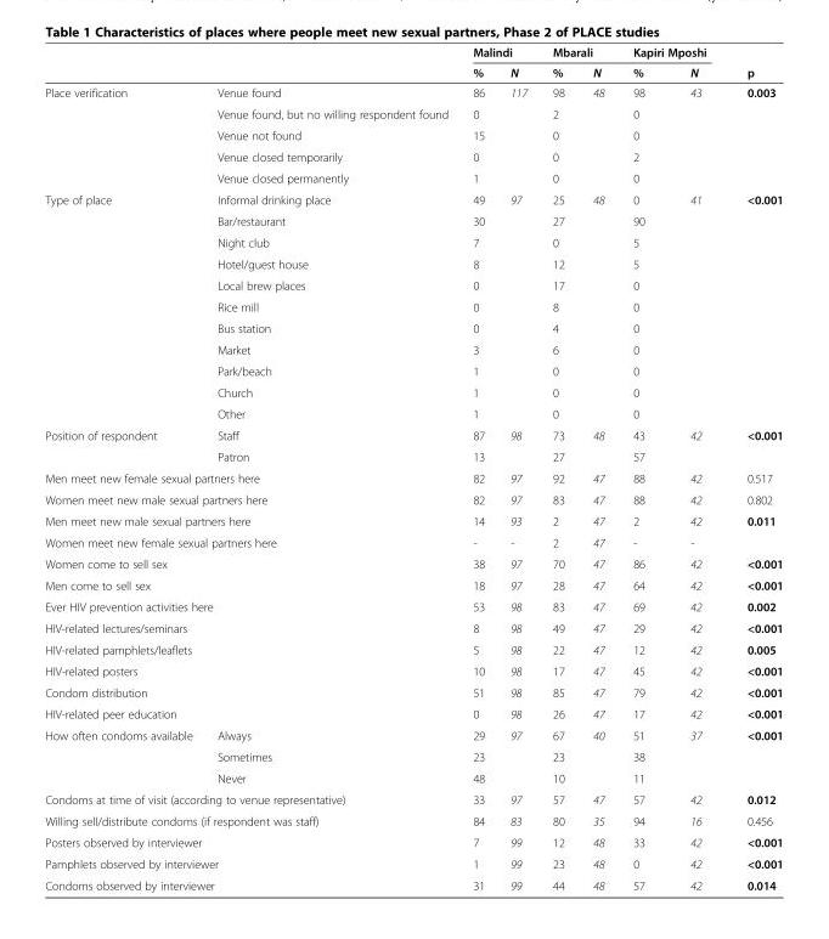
<table><thead><tr><td></td><td></td><td colspan="2">Malindi</td><td colspan="2">Mbarali</td><td colspan="2">Kapiri Mposhi</td><td rowspan="2">p</td></tr><tr><td colspan="2"></td><td>%</td><td>N</td><td>%</td><td>N</td><td>%</td><td>N</td></tr></thead><tbody><tr><td rowspan="5">Place verification</td><td>Venue found</td><td>86</td><td rowspan="5">117</td><td>98</td><td rowspan="5">48</td><td>98</td><td rowspan="5">43</td><td rowspan="5">0.003</td></tr><tr><td>Venue found, but no willing respondent found</td><td>0</td><td>2</td><td>0</td></tr><tr><td>Venue not found</td><td>15</td><td>0</td><td>0</td></tr><tr><td>Venue closed temporarily</td><td>0</td><td>0</td><td>2</td></tr><tr><td>Venue closed permanently</td><td>1</td><td>0</td><td>0</td></tr><tr><td rowspan="11">Type of place</td><td>Informal drinking place</td><td>49</td><td rowspan="11">97</td><td>25</td><td rowspan="11">48</td><td>0</td><td rowspan="11">41</td><td rowspan="11">&lt;0.001</td></tr><tr><td>Bar/restaurant</td><td>30</td><td>27</td><td>90</td></tr><tr><td>Night club</td><td>7</td><td>0</td><td>5</td></tr><tr><td>Hotel/guest house</td><td>8</td><td>12</td><td>5</td></tr><tr><td>Local brew places</td><td>0</td><td>17</td><td>0</td></tr><tr><td>Rice mill</td><td>0</td><td>8</td><td>0</td></tr><tr><td>Bus station</td><td>0</td><td>4</td><td>0</td></tr><tr><td>Market</td><td>3</td><td>6</td><td>0</td></tr><tr><td>Park/beach</td><td>1</td><td>0</td><td>0</td></tr><tr><td>Church</td><td>1</td><td>0</td><td>0</td></tr><tr><td>Other</td><td>1</td><td>0</td><td>0</td></tr><tr><td rowspan="2">Position of respondent</td><td>Staff</td><td>87</td><td rowspan="2">98</td><td>73</td><td rowspan="2">48</td><td>43</td><td rowspan="2">42</td><td rowspan="2">&lt;0.001</td></tr><tr><td>Patron</td><td>13</td><td>27</td><td>57</td></tr><tr><td colspan="2">Men meet new female sexual partners here</td><td>82</td><td>97</td><td>92</td><td>47</td><td>88</td><td>42</td><td>0.517</td></tr><tr><td colspan="2">Women meet new male sexual partners here</td><td>82</td><td>97</td><td>83</td><td>47</td><td>88</td><td>42</td><td>0.802</td></tr><tr><td colspan="2">Men meet new male sexual partners here</td><td>14</td><td>93</td><td>2</td><td>47</td><td>2</td><td>42</td><td>0.011</td></tr><tr><td colspan="2">Women meet new female sexual partners here</td><td>-</td><td>-</td><td>2</td><td>47</td><td>-</td><td>-</td><td></td></tr><tr><td colspan="2">Women come to sell sex</td><td>38</td><td>97</td><td>70</td><td>47</td><td>86</td><td>42</td><td>&lt;0.001</td></tr><tr><td colspan="2">Men come to sell sex</td><td>18</td><td>97</td><td>28</td><td>47</td><td>64</td><td>42</td><td>&lt;0.001</td></tr><tr><td colspan="2">Ever HIV prevention activities here</td><td>53</td><td>98</td><td>83</td><td>47</td><td>69</td><td>42</td><td>0.002</td></tr><tr><td colspan="2">HIV-related lectures/seminars</td><td>8</td><td>98</td><td>49</td><td>47</td><td>29</td><td>42</td><td>&lt;0.001</td></tr><tr><td colspan="2">HIV-related pamphlets/leaflets</td><td>5</td><td>98</td><td>22</td><td>47</td><td>12</td><td>42</td><td>0.005</td></tr><tr><td colspan="2">HIV-related posters</td><td>10</td><td>98</td><td>17</td><td>47</td><td>45</td><td>42</td><td>&lt;0.001</td></tr><tr><td colspan="2">Condom distribution</td><td>51</td><td>98</td><td>85</td><td>47</td><td>79</td><td>42</td><td>&lt;0.001</td></tr><tr><td colspan="2">HIV-related peer education</td><td>0</td><td>98</td><td>26</td><td>47</td><td>17</td><td>42</td><td>&lt;0.001</td></tr><tr><td rowspan="3">How often condoms available</td><td>Always</td><td>29</td><td rowspan="3">97</td><td>67</td><td rowspan="3">40</td><td>51</td><td rowspan="3">37</td><td rowspan="3">&lt;0.001</td></tr><tr><td>Sometimes</td><td>23</td><td>23</td><td>38</td></tr><tr><td>Never</td><td>48</td><td>10</td><td>11</td></tr><tr><td colspan="2">Condoms at time of visit (according to venue representative)</td><td>33</td><td>97</td><td>57</td><td>47</td><td>57</td><td>42</td><td>0.012</td></tr><tr><td colspan="2">Willing sell/distribute condoms (if respondent was staff)</td><td>84</td><td>83</td><td>80</td><td>35</td><td>94</td><td>16</td><td>0.456</td></tr><tr><td colspan="2">Posters observed by interviewer</td><td>7</td><td>99</td><td>12</td><td>48</td><td>33</td><td>42</td><td>&lt;0.001</td></tr><tr><td colspan="2">Pamphlets observed by interviewer</td><td>1</td><td>99</td><td>23</td><td>48</td><td>0</td><td>42</td><td>&lt;0.001</td></tr><tr><td colspan="2">Condoms observed by interviewer</td><td>31</td><td>99</td><td>44</td><td>48</td><td>57</td><td>42</td><td>0.014</td></tr></tbody></table>